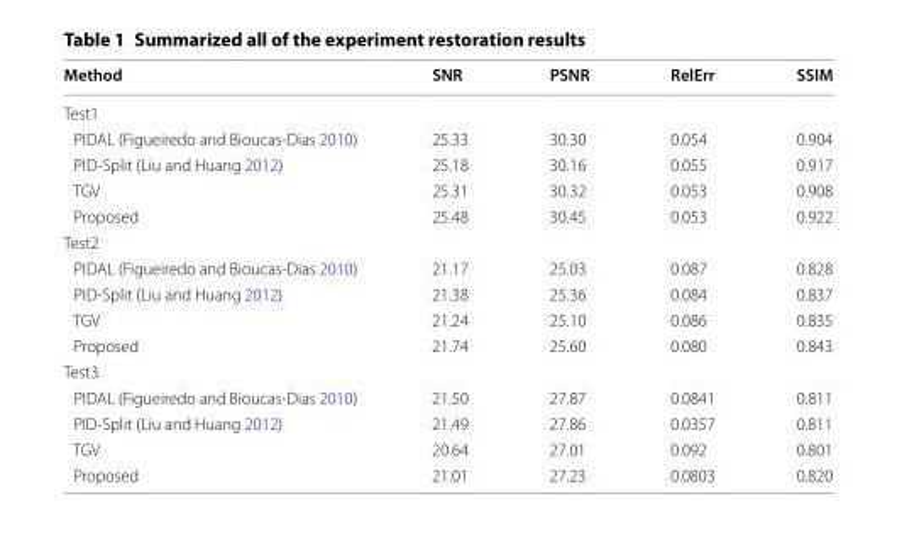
<table><thead><tr><td>Method</td><td>SNR</td><td>PSNR</td><td>RelErr</td><td>SSIM</td></tr></thead><tbody><tr><td colspan="5">Test1</td></tr><tr><td>PIDAL (Figueiredo and Bioucas‑Dias 2010)</td><td>25.33</td><td>30.30</td><td>0.054</td><td>0.904</td></tr><tr><td>PID‑Split (Liu and Huang 2012)</td><td>25.18</td><td>30.16</td><td>0.055</td><td>0.917</td></tr><tr><td>TGV</td><td>25.31</td><td>30.32</td><td>0.053</td><td>0.908</td></tr><tr><td>Proposed</td><td>25.48</td><td>30.45</td><td>0.053</td><td>0.922</td></tr><tr><td colspan="5">Test2</td></tr><tr><td>PIDAL (Figueiredo and Bioucas‑Dias 2010)</td><td>21.17</td><td>25.03</td><td>0.087</td><td>0.828</td></tr><tr><td>PID‑Split (Liu and Huang 2012)</td><td>21.38</td><td>25.36</td><td>0.084</td><td>0.837</td></tr><tr><td>TGV</td><td>21.24</td><td>25.10</td><td>0.086</td><td>0.835</td></tr><tr><td>Proposed</td><td>21.74</td><td>25.60</td><td>0.080</td><td>0.843</td></tr><tr><td colspan="5">Test3</td></tr><tr><td>PIDAL (Figueiredo and Bioucas‑Dias 2010)</td><td>21.50</td><td>27.87</td><td>0.0841</td><td>0.811</td></tr><tr><td>PID‑Split (Liu and Huang 2012)</td><td>21.49</td><td>27.86</td><td>0.0357</td><td>0.811</td></tr><tr><td>TGV</td><td>20.64</td><td>27.01</td><td>0.092</td><td>0.801</td></tr><tr><td>Proposed</td><td>21.01</td><td>27.23</td><td>0.0803</td><td>0.820</td></tr></tbody></table>